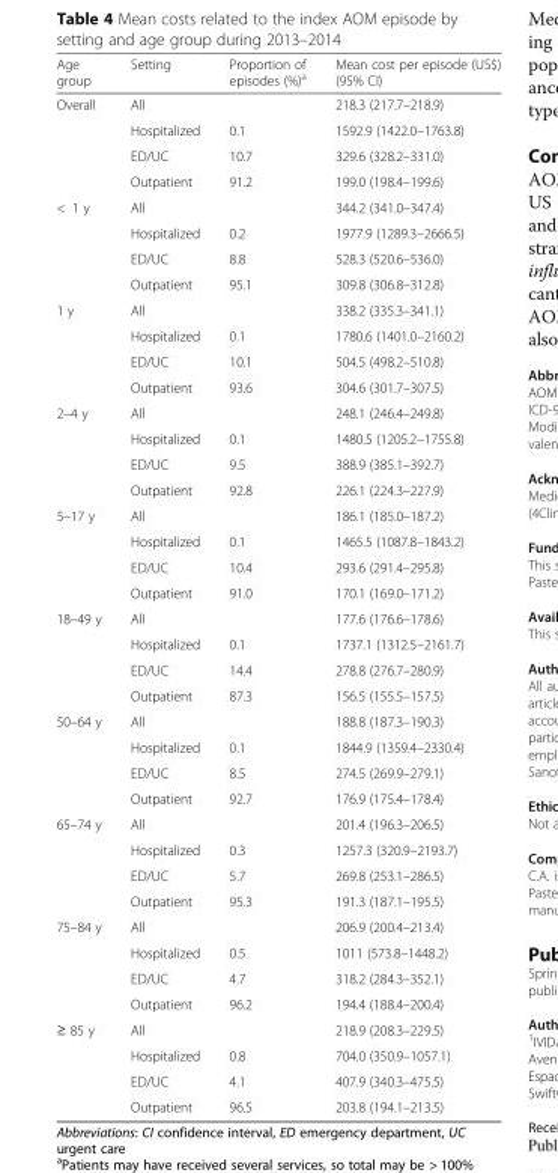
<table><thead><tr><td>Age group</td><td>Setting</td><td>Proportion of episodes (%)<sup>a</sup></td><td>Mean cost per episode (US$) (95% CI)</td></tr></thead><tbody><tr><td rowspan="4">Overall</td><td>All</td><td></td><td>218.3 (217.7–218.9)</td></tr><tr><td>Hospitalized</td><td>0.1</td><td>1592.9 (1422.0–1763.8)</td></tr><tr><td>ED/UC</td><td>10.7</td><td>329.6 (328.2–331.0)</td></tr><tr><td>Outpatient</td><td>91.2</td><td>199.0 (198.4–199.6)</td></tr><tr><td rowspan="4">&lt; 1 y</td><td>All</td><td></td><td>344.2 (341.0–347.4)</td></tr><tr><td>Hospitalized</td><td>0.2</td><td>1977.9 (1289.3–2666.5)</td></tr><tr><td>ED/UC</td><td>8.8</td><td>528.3 (520.6–536.0)</td></tr><tr><td>Outpatient</td><td>95.1</td><td>309.8 (306.8–312.8)</td></tr><tr><td rowspan="4">1 y</td><td>All</td><td></td><td>338.2 (335.3–341.1)</td></tr><tr><td>Hospitalized</td><td>0.1</td><td>1780.6 (1401.0–2160.2)</td></tr><tr><td>ED/UC</td><td>10.1</td><td>504.5 (498.2–510.8)</td></tr><tr><td>Outpatient</td><td>93.6</td><td>304.6 (301.7–307.5)</td></tr><tr><td rowspan="4">2–4 y</td><td>All</td><td></td><td>248.1 (246.4–249.8)</td></tr><tr><td>Hospitalized</td><td>0.1</td><td>1480.5 (1205.2–1755.8)</td></tr><tr><td>ED/UC</td><td>9.5</td><td>388.9 (385.1–392.7)</td></tr><tr><td>Outpatient</td><td>92.8</td><td>226.1 (224.3–227.9)</td></tr><tr><td rowspan="4">5–17 y</td><td>All</td><td></td><td>186.1 (185.0–187.2)</td></tr><tr><td>Hospitalized</td><td>0.1</td><td>1465.5 (1087.8–1843.2)</td></tr><tr><td>ED/UC</td><td>10.4</td><td>293.6 (291.4–295.8)</td></tr><tr><td>Outpatient</td><td>91.0</td><td>170.1 (169.0–171.2)</td></tr><tr><td rowspan="4">18–49 y</td><td>All</td><td></td><td>177.6 (176.6–178.6)</td></tr><tr><td>Hospitalized</td><td>0.1</td><td>1737.1 (1312.5–2161.7)</td></tr><tr><td>ED/UC</td><td>14.4</td><td>278.8 (276.7–280.9)</td></tr><tr><td>Outpatient</td><td>87.3</td><td>156.5 (155.5–157.5)</td></tr><tr><td rowspan="4">50–64 y</td><td>All</td><td></td><td>188.8 (187.3–190.3)</td></tr><tr><td>Hospitalized</td><td>0.1</td><td>1844.9 (1359.4–2330.4)</td></tr><tr><td>ED/UC</td><td>8.5</td><td>274.5 (269.9–279.1)</td></tr><tr><td>Outpatient</td><td>92.7</td><td>176.9 (175.4–178.4)</td></tr><tr><td rowspan="4">65–74 y</td><td>All</td><td></td><td>201.4 (196.3–206.5)</td></tr><tr><td>Hospitalized</td><td>0.3</td><td>1257.3 (320.9–2193.7)</td></tr><tr><td>ED/UC</td><td>5.7</td><td>269.8 (253.1–286.5)</td></tr><tr><td>Outpatient</td><td>95.3</td><td>191.3 (187.1–195.5)</td></tr><tr><td rowspan="4">75–84 y</td><td>All</td><td></td><td>206.9 (200.4–213.4)</td></tr><tr><td>Hospitalized</td><td>0.5</td><td>1011 (573.8–1448.2)</td></tr><tr><td>ED/UC</td><td>4.7</td><td>318.2 (284.3–352.1)</td></tr><tr><td>Outpatient</td><td>96.2</td><td>194.4 (188.4–200.4)</td></tr><tr><td rowspan="4">≥ 85 y</td><td>All</td><td></td><td>218.9 (208.3–229.5)</td></tr><tr><td>Hospitalized</td><td>0.8</td><td>704.0 (350.9–1057.1)</td></tr><tr><td>ED/UC</td><td>4.1</td><td>407.9 (340.3–475.5)</td></tr><tr><td>Outpatient</td><td>96.5</td><td>203.8 (194.1–213.5)</td></tr></tbody></table>